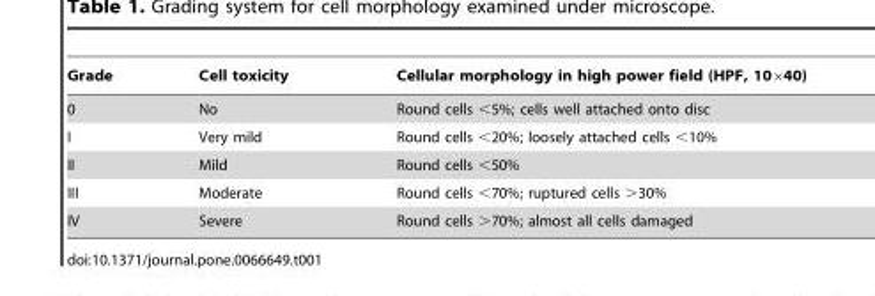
<table><thead><tr><td>Grade</td><td>Cell toxicity</td><td>Cellular morphology in high power field (HPF, 10×40)</td></tr></thead><tbody><tr><td>0</td><td>No</td><td>Round cells &lt;5%; cells well attached onto disc</td></tr><tr><td>I</td><td>Very mild</td><td>Round cells &lt;20%; loosely attached cells &lt;10%</td></tr><tr><td>II</td><td>Mild</td><td>Round cells &lt;50%</td></tr><tr><td>III</td><td>Moderate</td><td>Round cells &lt;70%; ruptured cells &gt;30%</td></tr><tr><td>IV</td><td>Severe</td><td>Round cells &gt;70%; almost all cells damaged</td></tr></tbody></table>